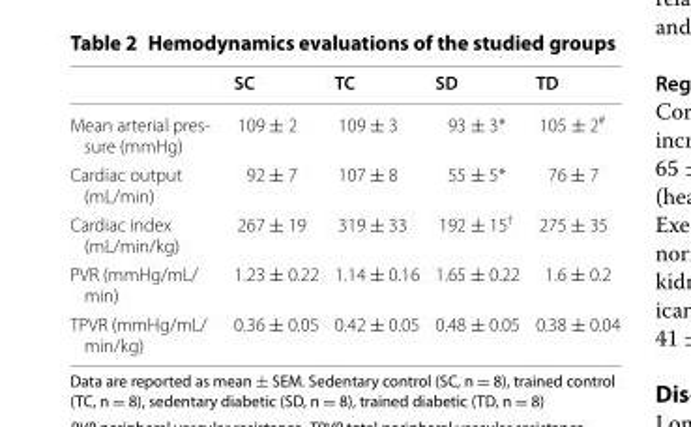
<table><thead><tr><td></td><td>SC</td><td>TC</td><td>SD</td><td>TD</td></tr></thead><tbody><tr><td>Mean arterial pres‑ sure (mmHg)</td><td>109 ± 2</td><td>109 ± 3</td><td>93 ± 3*</td><td>105 ± 2<sup>#</sup></td></tr><tr><td>Cardiac output (mL/min)</td><td>92 ± 7</td><td>107 ± 8</td><td>55 ± 5*</td><td>76 ± 7</td></tr><tr><td>Cardiac index (mL/min/kg)</td><td>267 ± 19</td><td>319 ± 33</td><td>192 ± 15<sup>†</sup></td><td>275 ± 35</td></tr><tr><td>PVR (mmHg/mL/ min)</td><td>1.23 ± 0.22</td><td>1.14 ± 0.16</td><td>1.65 ± 0.22</td><td>1.6 ± 0.2</td></tr><tr><td>TPVR (mmHg/mL/ min/kg)</td><td>0.36 ± 0.05</td><td>0.42 ± 0.05</td><td>0.48 ± 0.05</td><td>0.38 ± 0.04</td></tr></tbody></table>